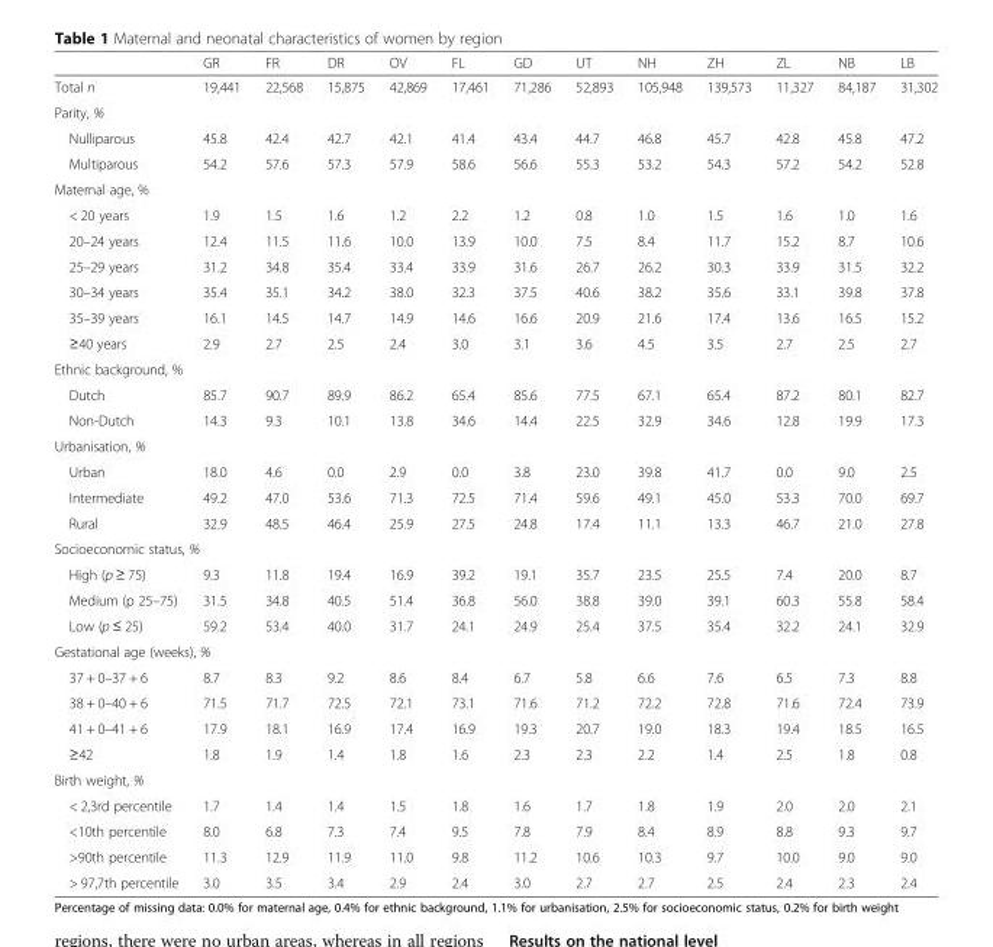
<table><thead><tr><td></td><td>GR</td><td>FR</td><td>DR</td><td>OV</td><td>FL</td><td>GD</td><td>UT</td><td>NH</td><td>ZH</td><td>ZL</td><td>NB</td><td>LB</td></tr></thead><tbody><tr><td>Total n</td><td>19,441</td><td>22,568</td><td>15,875</td><td>42,869</td><td>17,461</td><td>71,286</td><td>52,893</td><td>105,948</td><td>139,573</td><td>11,327</td><td>84,187</td><td>31,302</td></tr><tr><td colspan="13">Parity, %</td></tr><tr><td>Nulliparous</td><td>45.8</td><td>42.4</td><td>42.7</td><td>42.1</td><td>41.4</td><td>43.4</td><td>44.7</td><td>46.8</td><td>45.7</td><td>42.8</td><td>45.8</td><td>47.2</td></tr><tr><td>Multiparous</td><td>54.2</td><td>57.6</td><td>57.3</td><td>57.9</td><td>58.6</td><td>56.6</td><td>55.3</td><td>53.2</td><td>54.3</td><td>57.2</td><td>54.2</td><td>52.8</td></tr><tr><td colspan="13">Maternal age, %</td></tr><tr><td>&lt; 20 years</td><td>1.9</td><td>1.5</td><td>1.6</td><td>1.2</td><td>2.2</td><td>1.2</td><td>0.8</td><td>1.0</td><td>1.5</td><td>1.6</td><td>1.0</td><td>1.6</td></tr><tr><td>20–24 years</td><td>12.4</td><td>11.5</td><td>11.6</td><td>10.0</td><td>13.9</td><td>10.0</td><td>7.5</td><td>8.4</td><td>11.7</td><td>15.2</td><td>8.7</td><td>10.6</td></tr><tr><td>25–29 years</td><td>31.2</td><td>34.8</td><td>35.4</td><td>33.4</td><td>33.9</td><td>31.6</td><td>26.7</td><td>26.2</td><td>30.3</td><td>33.9</td><td>31.5</td><td>32.2</td></tr><tr><td>30–34 years</td><td>35.4</td><td>35.1</td><td>34.2</td><td>38.0</td><td>32.3</td><td>37.5</td><td>40.6</td><td>38.2</td><td>35.6</td><td>33.1</td><td>39.8</td><td>37.8</td></tr><tr><td>35–39 years</td><td>16.1</td><td>14.5</td><td>14.7</td><td>14.9</td><td>14.6</td><td>16.6</td><td>20.9</td><td>21.6</td><td>17.4</td><td>13.6</td><td>16.5</td><td>15.2</td></tr><tr><td>≥40 years</td><td>2.9</td><td>2.7</td><td>2.5</td><td>2.4</td><td>3.0</td><td>3.1</td><td>3.6</td><td>4.5</td><td>3.5</td><td>2.7</td><td>2.5</td><td>2.7</td></tr><tr><td colspan="13">Ethnic background, %</td></tr><tr><td>Dutch</td><td>85.7</td><td>90.7</td><td>89.9</td><td>86.2</td><td>65.4</td><td>85.6</td><td>77.5</td><td>67.1</td><td>65.4</td><td>87.2</td><td>80.1</td><td>82.7</td></tr><tr><td>Non-Dutch</td><td>14.3</td><td>9.3</td><td>10.1</td><td>13.8</td><td>34.6</td><td>14.4</td><td>22.5</td><td>32.9</td><td>34.6</td><td>12.8</td><td>19.9</td><td>17.3</td></tr><tr><td colspan="13">Urbanisation, %</td></tr><tr><td>Urban</td><td>18.0</td><td>4.6</td><td>0.0</td><td>2.9</td><td>0.0</td><td>3.8</td><td>23.0</td><td>39.8</td><td>41.7</td><td>0.0</td><td>9.0</td><td>2.5</td></tr><tr><td>Intermediate</td><td>49.2</td><td>47.0</td><td>53.6</td><td>71.3</td><td>72.5</td><td>71.4</td><td>59.6</td><td>49.1</td><td>45.0</td><td>53.3</td><td>70.0</td><td>69.7</td></tr><tr><td>Rural</td><td>32.9</td><td>48.5</td><td>46.4</td><td>25.9</td><td>27.5</td><td>24.8</td><td>17.4</td><td>11.1</td><td>13.3</td><td>46.7</td><td>21.0</td><td>27.8</td></tr><tr><td colspan="13">Socioeconomic status, %</td></tr><tr><td>High (p ≥ 75)</td><td>9.3</td><td>11.8</td><td>19.4</td><td>16.9</td><td>39.2</td><td>19.1</td><td>35.7</td><td>23.5</td><td>25.5</td><td>7.4</td><td>20.0</td><td>8.7</td></tr><tr><td>Medium (p 25–75)</td><td>31.5</td><td>34.8</td><td>40.5</td><td>51.4</td><td>36.8</td><td>56.0</td><td>38.8</td><td>39.0</td><td>39.1</td><td>60.3</td><td>55.8</td><td>58.4</td></tr><tr><td>Low (p ≤ 25)</td><td>59.2</td><td>53.4</td><td>40.0</td><td>31.7</td><td>24.1</td><td>24.9</td><td>25.4</td><td>37.5</td><td>35.4</td><td>32.2</td><td>24.1</td><td>32.9</td></tr><tr><td colspan="13">Gestational age (weeks), %</td></tr><tr><td>37 + 0–37 + 6</td><td>8.7</td><td>8.3</td><td>9.2</td><td>8.6</td><td>8.4</td><td>6.7</td><td>5.8</td><td>6.6</td><td>7.6</td><td>6.5</td><td>7.3</td><td>8.8</td></tr><tr><td>38 + 0–40 + 6</td><td>71.5</td><td>71.7</td><td>72.5</td><td>72.1</td><td>73.1</td><td>71.6</td><td>71.2</td><td>72.2</td><td>72.8</td><td>71.6</td><td>72.4</td><td>73.9</td></tr><tr><td>41 + 0–41 + 6</td><td>17.9</td><td>18.1</td><td>16.9</td><td>17.4</td><td>16.9</td><td>19.3</td><td>20.7</td><td>19.0</td><td>18.3</td><td>19.4</td><td>18.5</td><td>16.5</td></tr><tr><td>≥42</td><td>1.8</td><td>1.9</td><td>1.4</td><td>1.8</td><td>1.6</td><td>2.3</td><td>2.3</td><td>2.2</td><td>1.4</td><td>2.5</td><td>1.8</td><td>0.8</td></tr><tr><td colspan="13">Birth weight, %</td></tr><tr><td>&lt; 2,3rd percentile</td><td>1.7</td><td>1.4</td><td>1.4</td><td>1.5</td><td>1.8</td><td>1.6</td><td>1.7</td><td>1.8</td><td>1.9</td><td>2.0</td><td>2.0</td><td>2.1</td></tr><tr><td>&lt;10th percentile</td><td>8.0</td><td>6.8</td><td>7.3</td><td>7.4</td><td>9.5</td><td>7.8</td><td>7.9</td><td>8.4</td><td>8.9</td><td>8.8</td><td>9.3</td><td>9.7</td></tr><tr><td>&gt;90th percentile</td><td>11.3</td><td>12.9</td><td>11.9</td><td>11.0</td><td>9.8</td><td>11.2</td><td>10.6</td><td>10.3</td><td>9.7</td><td>10.0</td><td>9.0</td><td>9.0</td></tr><tr><td>&gt; 97,7th percentile</td><td>3.0</td><td>3.5</td><td>3.4</td><td>2.9</td><td>2.4</td><td>3.0</td><td>2.7</td><td>2.7</td><td>2.5</td><td>2.4</td><td>2.3</td><td>2.4</td></tr></tbody></table>